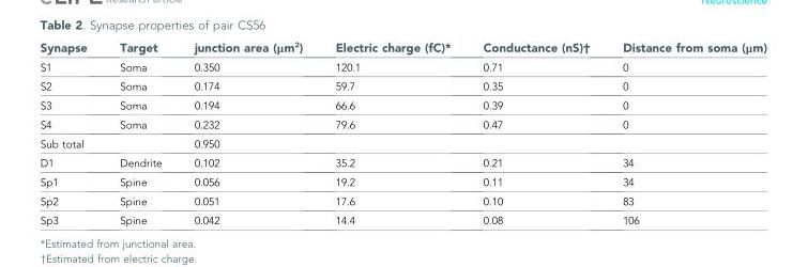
<table><thead><tr><td>Synapse</td><td>Target</td><td>junction area (μm<sup>2</sup>)</td><td>Electric charge (fC)*</td><td>Conductance (nS)†</td><td>Distance from soma (μm)</td></tr></thead><tbody><tr><td>S1</td><td>Soma</td><td>0.350</td><td>120.1</td><td>0.71</td><td>0</td></tr><tr><td>S2</td><td>Soma</td><td>0.174</td><td>59.7</td><td>0.35</td><td>0</td></tr><tr><td>S3</td><td>Soma</td><td>0.194</td><td>66.6</td><td>0.39</td><td>0</td></tr><tr><td>S4</td><td>Soma</td><td>0.232</td><td>79.6</td><td>0.47</td><td>0</td></tr><tr><td>Sub total</td><td></td><td>0.950</td><td></td><td></td><td></td></tr><tr><td>D1</td><td>Dendrite</td><td>0.102</td><td>35.2</td><td>0.21</td><td>34</td></tr><tr><td>Sp1</td><td>Spine</td><td>0.056</td><td>19.2</td><td>0.11</td><td>34</td></tr><tr><td>Sp2</td><td>Spine</td><td>0.051</td><td>17.6</td><td>0.10</td><td>83</td></tr><tr><td>Sp3</td><td>Spine</td><td>0.042</td><td>14.4</td><td>0.08</td><td>106</td></tr></tbody></table>